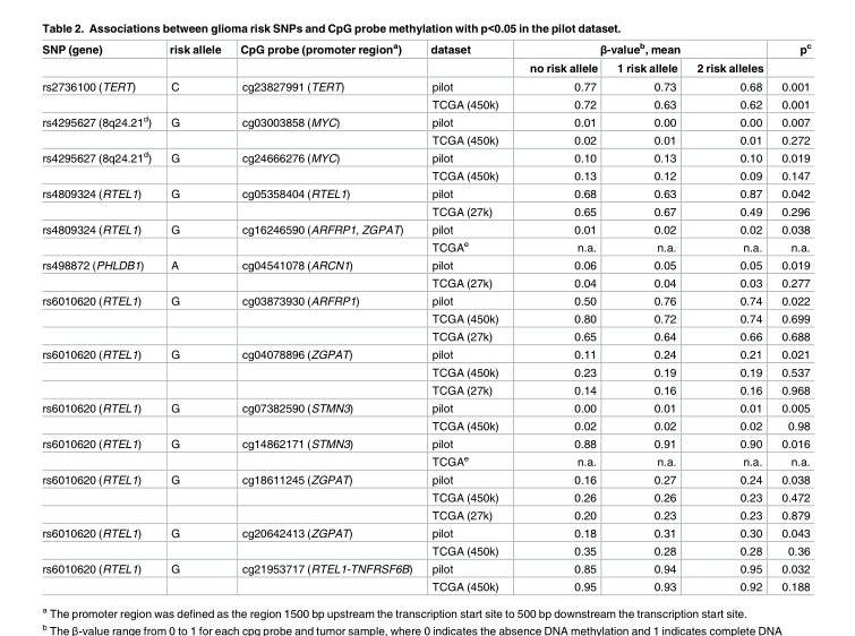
<table><thead><tr><td rowspan="2">SNP (gene)</td><td rowspan="2">risk allele</td><td rowspan="2">CpG probe (promoter region<sup>a</sup>)</td><td rowspan="2">dataset</td><td colspan="3">β-value<sup>b</sup>, mean</td><td rowspan="2">p<sup>c</sup></td></tr><tr><td>no risk allele</td><td>1 risk allele</td><td>2 risk alleles</td></tr></thead><tbody><tr><td rowspan="2">rs2736100 (TERT)</td><td>C</td><td>cg23827991 (TERT)</td><td>pilot</td><td>0.77</td><td>0.73</td><td>0.68</td><td>0.001</td></tr><tr><td></td><td></td><td>TCGA (450k)</td><td>0.72</td><td>0.63</td><td>0.62</td><td>0.001</td></tr><tr><td rowspan="2">rs4295627 (8q24.21<sup>d</sup>)</td><td>G</td><td>cg03003858 (MYC)</td><td>pilot</td><td>0.01</td><td>0.00</td><td>0.00</td><td>0.007</td></tr><tr><td></td><td></td><td>TCGA (450k)</td><td>0.02</td><td>0.01</td><td>0.01</td><td>0.272</td></tr><tr><td rowspan="2">rs4295627 (8q24.21<sup>d</sup>)</td><td>G</td><td>cg24666276 (MYC)</td><td>pilot</td><td>0.10</td><td>0.13</td><td>0.10</td><td>0.019</td></tr><tr><td></td><td></td><td>TCGA (450k)</td><td>0.13</td><td>0.12</td><td>0.09</td><td>0.147</td></tr><tr><td rowspan="2">rs4809324 (RTEL1)</td><td>G</td><td>cg05358404 (RTEL1)</td><td>pilot</td><td>0.68</td><td>0.63</td><td>0.87</td><td>0.042</td></tr><tr><td></td><td></td><td>TCGA (27k)</td><td>0.65</td><td>0.67</td><td>0.49</td><td>0.296</td></tr><tr><td rowspan="2">rs4809324 (RTEL1)</td><td>G</td><td>cg16246590 (ARFRP1, ZGPAT)</td><td>pilot</td><td>0.01</td><td>0.02</td><td>0.02</td><td>0.038</td></tr><tr><td></td><td></td><td>TCGA<sup>e</sup></td><td>n.a.</td><td>n.a.</td><td>n.a.</td><td>n.a.</td></tr><tr><td rowspan="2">rs498872 (PHLDB1)</td><td>A</td><td>cg04541078 (ARCN1)</td><td>pilot</td><td>0.06</td><td>0.05</td><td>0.05</td><td>0.019</td></tr><tr><td></td><td></td><td>TCGA (27k)</td><td>0.04</td><td>0.04</td><td>0.03</td><td>0.277</td></tr><tr><td rowspan="3">rs6010620 (RTEL1)</td><td>G</td><td>cg03873930 (ARFRP1)</td><td>pilot</td><td>0.50</td><td>0.76</td><td>0.74</td><td>0.022</td></tr><tr><td></td><td></td><td>TCGA (450k)</td><td>0.80</td><td>0.72</td><td>0.74</td><td>0.699</td></tr><tr><td></td><td></td><td>TCGA (27k)</td><td>0.65</td><td>0.64</td><td>0.66</td><td>0.688</td></tr><tr><td rowspan="3">rs6010620 (RTEL1)</td><td>G</td><td>cg04078896 (ZGPAT)</td><td>pilot</td><td>0.11</td><td>0.24</td><td>0.21</td><td>0.021</td></tr><tr><td></td><td></td><td>TCGA (450k)</td><td>0.23</td><td>0.19</td><td>0.19</td><td>0.537</td></tr><tr><td></td><td></td><td>TCGA (27k)</td><td>0.14</td><td>0.16</td><td>0.16</td><td>0.968</td></tr><tr><td rowspan="2">rs6010620 (RTEL1)</td><td>G</td><td>cg07382590 (STMN3)</td><td>pilot</td><td>0.00</td><td>0.01</td><td>0.01</td><td>0.005</td></tr><tr><td></td><td></td><td>TCGA (450k)</td><td>0.02</td><td>0.02</td><td>0.02</td><td>0.98</td></tr><tr><td rowspan="2">rs6010620 (RTEL1)</td><td>G</td><td>cg14862171 (STMN3)</td><td>pilot</td><td>0.88</td><td>0.91</td><td>0.90</td><td>0.016</td></tr><tr><td></td><td></td><td>TCGA<sup>e</sup></td><td>n.a.</td><td>n.a.</td><td>n.a.</td><td>n.a.</td></tr><tr><td rowspan="3">rs6010620 (RTEL1)</td><td>G</td><td>cg18611245 (ZGPAT)</td><td>pilot</td><td>0.16</td><td>0.27</td><td>0.24</td><td>0.038</td></tr><tr><td></td><td></td><td>TCGA (450k)</td><td>0.26</td><td>0.26</td><td>0.23</td><td>0.472</td></tr><tr><td></td><td></td><td>TCGA (27k)</td><td>0.20</td><td>0.23</td><td>0.23</td><td>0.879</td></tr><tr><td rowspan="2">rs6010620 (RTEL1)</td><td>G</td><td>cg20642413 (ZGPAT)</td><td>pilot</td><td>0.18</td><td>0.31</td><td>0.30</td><td>0.043</td></tr><tr><td></td><td></td><td>TCGA (450k)</td><td>0.35</td><td>0.28</td><td>0.28</td><td>0.36</td></tr><tr><td rowspan="2">rs6010620 (RTEL1)</td><td>G</td><td>cg21953717 (RTEL1-TNFRSF6B)</td><td>pilot</td><td>0.85</td><td>0.94</td><td>0.95</td><td>0.032</td></tr><tr><td></td><td></td><td>TCGA (450k)</td><td>0.95</td><td>0.93</td><td>0.92</td><td>0.188</td></tr></tbody></table>